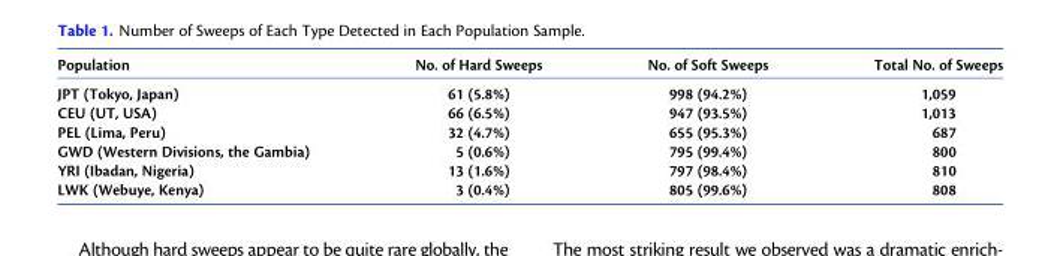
<table><thead><tr><td>Population</td><td>No. of Hard Sweeps</td><td>No. of Soft Sweeps</td><td>Total No. of Sweeps</td></tr></thead><tbody><tr><td>JPT (Tokyo, Japan)</td><td>61 (5.8%)</td><td>998 (94.2%)</td><td>1,059</td></tr><tr><td>CEU (UT, USA)</td><td>66 (6.5%)</td><td>947 (93.5%)</td><td>1,013</td></tr><tr><td>PEL (Lima, Peru)</td><td>32 (4.7%)</td><td>655 (95.3%)</td><td>687</td></tr><tr><td>GWD (Western Divisions, the Gambia)</td><td>5 (0.6%)</td><td>795 (99.4%)</td><td>800</td></tr><tr><td>YRI (Ibadan, Nigeria)</td><td>13 (1.6%)</td><td>797 (98.4%)</td><td>810</td></tr><tr><td>LWK (Webuye, Kenya)</td><td>3 (0.4%)</td><td>805 (99.6%)</td><td>808</td></tr></tbody></table>